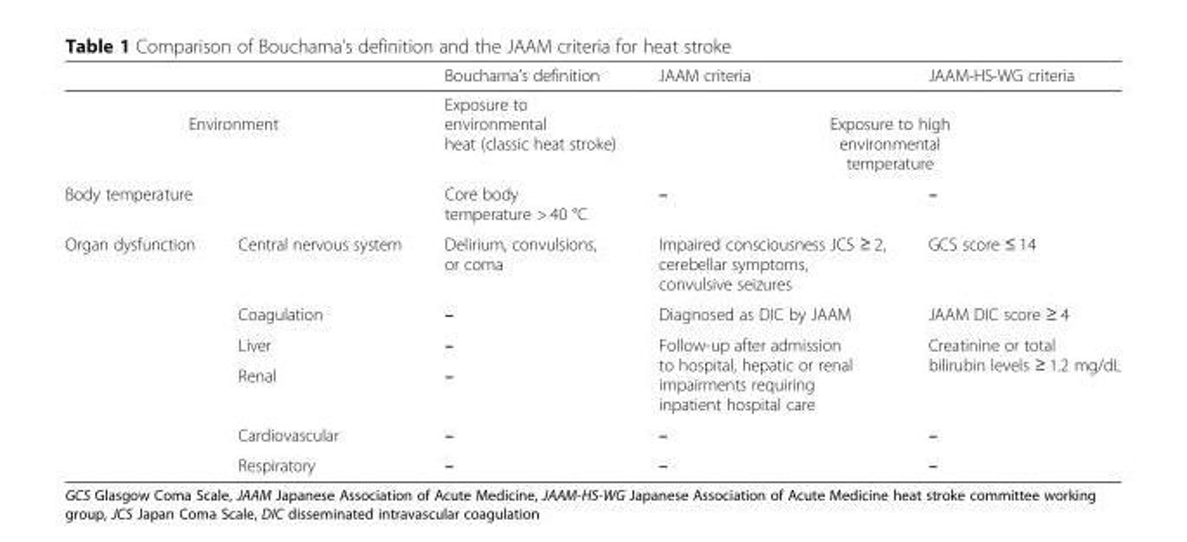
<table><thead><tr><td></td><td></td><td>Bouchama’s definition</td><td>JAAM criteria</td><td>JAAM-HS-WG criteria</td></tr></thead><tbody><tr><td colspan="2">Environment</td><td>Exposure to environmental heat (classic heat stroke)</td><td colspan="2">Exposure to high environmental temperature</td></tr><tr><td colspan="2">Body temperature</td><td>Core body temperature &gt; 40 °C</td><td>–</td><td>–</td></tr><tr><td rowspan="6">Organ dysfunction</td><td>Central nervous system</td><td>Delirium, convulsions, or coma</td><td>Impaired consciousness JCS ≥ 2, cerebellar symptoms, convulsive seizures</td><td>GCS score ≤ 14</td></tr><tr><td>Coagulation</td><td>–</td><td>Diagnosed as DIC by JAAM</td><td>JAAM DIC score ≥ 4</td></tr><tr><td>Liver</td><td>–</td><td rowspan="2">Follow-up after admission to hospital, hepatic or renal impairments requiring inpatient hospital care</td><td rowspan="2">Creatinine or total bilirubin levels ≥ 1.2 mg/dL</td></tr><tr><td>Renal</td><td>–</td></tr><tr><td>Cardiovascular</td><td>–</td><td>–</td><td>–</td></tr><tr><td>Respiratory</td><td>–</td><td>–</td><td>–</td></tr></tbody></table>